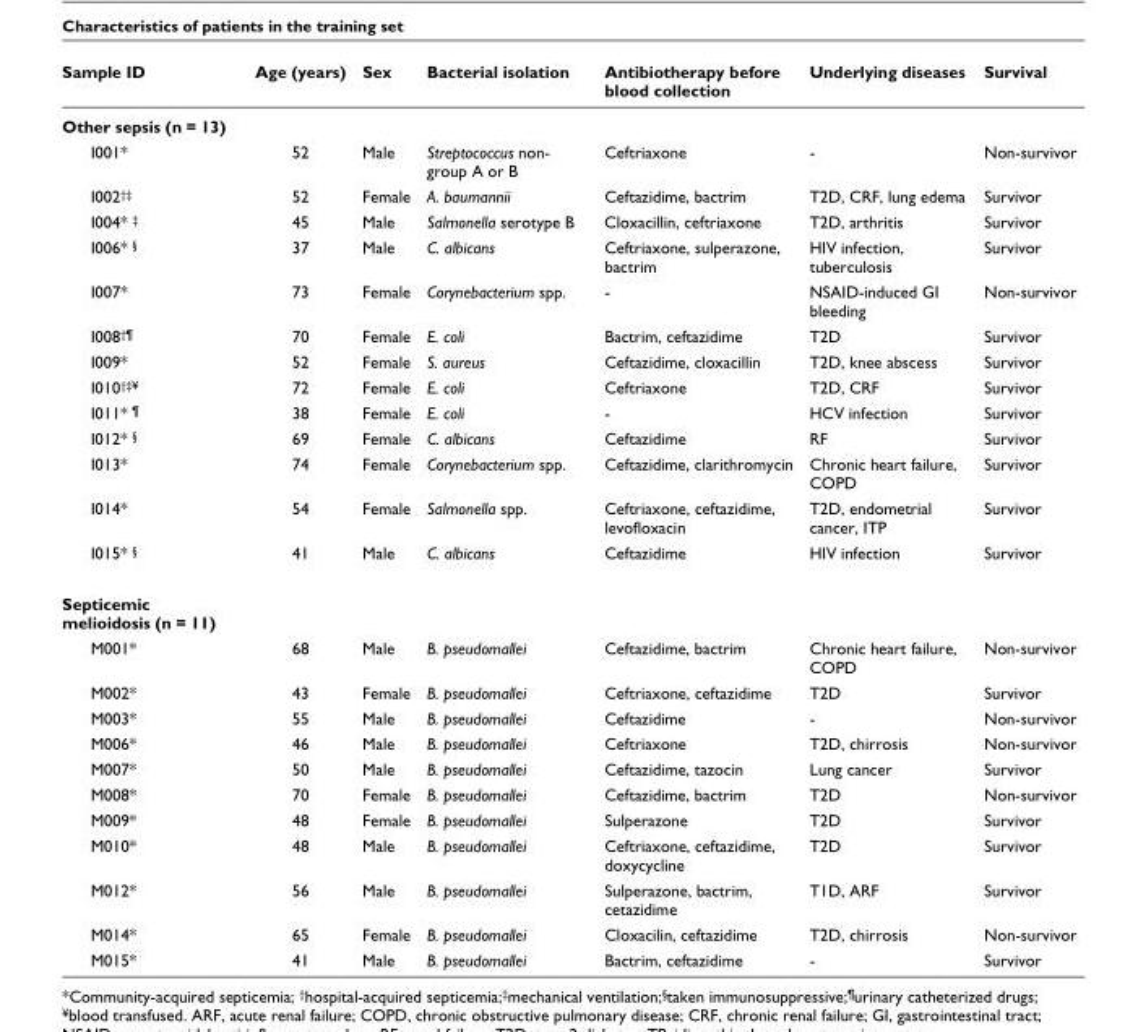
<table><thead><tr><td>Sample ID</td><td>Age (years)</td><td>Sex</td><td>Bacterial isolation</td><td>Antibiotherapy before blood collection</td><td>Underlying diseases</td><td>Survival</td></tr></thead><tbody><tr><td colspan="7">Other sepsis (n = 13)</td></tr><tr><td>I001*</td><td>52</td><td>Male</td><td>Streptococcus non- group A or B</td><td>Ceftriaxone</td><td>-</td><td>Non-survivor</td></tr><tr><td>I002<sup>†‡</sup></td><td>52</td><td>Female</td><td>A. baumannii</td><td>Ceftazidime, bactrim</td><td>T2D, CRF, lung edema</td><td>Survivor</td></tr><tr><td>I004* <sup>‡</sup></td><td>45</td><td>Male</td><td>Salmonella serotype B</td><td>Cloxacillin, ceftriaxone</td><td>T2D, arthritis</td><td>Survivor</td></tr><tr><td>I006* <sup>§</sup></td><td>37</td><td>Male</td><td>C. albicans</td><td>Ceftriaxone, sulperazone, bactrim</td><td>HIV infection, tuberculosis</td><td>Survivor</td></tr><tr><td>I007*</td><td>73</td><td>Female</td><td>Corynebacterium spp.</td><td>-</td><td>NSAID-induced GI bleeding</td><td>Non-survivor</td></tr><tr><td>I008<sup>†¶</sup></td><td>70</td><td>Female</td><td>E. coli</td><td>Bactrim, ceftazidime</td><td>T2D</td><td>Survivor</td></tr><tr><td>I009*</td><td>52</td><td>Female</td><td>S. aureus</td><td>Ceftazidime, cloxacillin</td><td>T2D, knee abscess</td><td>Survivor</td></tr><tr><td>I010<sup>†‡¥</sup></td><td>72</td><td>Female</td><td>E. coli</td><td>Ceftriaxone</td><td>T2D, CRF</td><td>Survivor</td></tr><tr><td>I011* <sup>¶</sup></td><td>38</td><td>Female</td><td>E. coli</td><td>-</td><td>HCV infection</td><td>Survivor</td></tr><tr><td>I012* <sup>§</sup></td><td>69</td><td>Female</td><td>C. albicans</td><td>Ceftazidime</td><td>RF</td><td>Survivor</td></tr><tr><td>I013*</td><td>74</td><td>Female</td><td>Corynebacterium spp.</td><td>Ceftazidime, clarithromycin</td><td>Chronic heart failure, COPD</td><td>Survivor</td></tr><tr><td>I014*</td><td>54</td><td>Female</td><td>Salmonella spp.</td><td>Ceftriaxone, ceftazidime, levofloxacin</td><td>T2D, endometrial cancer, ITP</td><td>Survivor</td></tr><tr><td>I015* <sup>§</sup></td><td>41</td><td>Male</td><td>C. albicans</td><td>Ceftazidime</td><td>HIV infection</td><td>Survivor</td></tr><tr><td colspan="7">Septicemic melioidosis (n = 11)</td></tr><tr><td>M001*</td><td>68</td><td>Male</td><td>B. pseudomallei</td><td>Ceftazidime, bactrim</td><td>Chronic heart failure, COPD</td><td>Non-survivor</td></tr><tr><td>M002*</td><td>43</td><td>Female</td><td>B. pseudomallei</td><td>Ceftriaxone, ceftazidime</td><td>T2D</td><td>Survivor</td></tr><tr><td>M003*</td><td>55</td><td>Male</td><td>B. pseudomallei</td><td>Ceftazidime</td><td>-</td><td>Non-survivor</td></tr><tr><td>M006*</td><td>46</td><td>Male</td><td>B. pseudomallei</td><td>Ceftriaxone</td><td>T2D, chirrosis</td><td>Non-survivor</td></tr><tr><td>M007*</td><td>50</td><td>Male</td><td>B. pseudomallei</td><td>Ceftazidime, tazocin</td><td>Lung cancer</td><td>Survivor</td></tr><tr><td>M008*</td><td>70</td><td>Female</td><td>B. pseudomallei</td><td>Ceftazidime, bactrim</td><td>T2D</td><td>Non-survivor</td></tr><tr><td>M009*</td><td>48</td><td>Female</td><td>B. pseudomallei</td><td>Sulperazone</td><td>T2D</td><td>Survivor</td></tr><tr><td>M010*</td><td>48</td><td>Male</td><td>B. pseudomallei</td><td>Ceftriaxone, ceftazidime, doxycycline</td><td>T2D</td><td>Survivor</td></tr><tr><td>M012*</td><td>56</td><td>Male</td><td>B. pseudomallei</td><td>Sulperazone, bactrim, cetazidime</td><td>T1D, ARF</td><td>Survivor</td></tr><tr><td>M014*</td><td>65</td><td>Female</td><td>B. pseudomallei</td><td>Cloxacilin, ceftazidime</td><td>T2D, chirrosis</td><td>Non-survivor</td></tr><tr><td>M015*</td><td>41</td><td>Male</td><td>B. pseudomallei</td><td>Bactrim, ceftazidime</td><td>-</td><td>Survivor</td></tr></tbody></table>